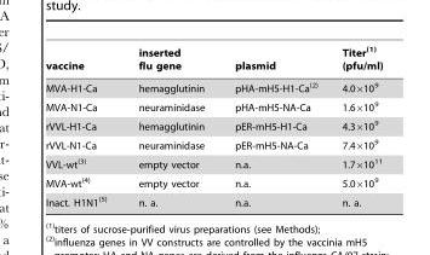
<table><thead><tr><td>vaccine</td><td>inserted flu gene</td><td>plasmid</td><td>Titer(1) (pfu/ml)</td></tr></thead><tbody><tr><td>MVA-H1-Ca</td><td>hemagglutinin</td><td>pHA-mH5-H1-Ca(2)</td><td>4.0×10<sup>9</sup></td></tr><tr><td>MVA-N1-Ca</td><td>neuraminidase</td><td>pHA-mH5-NA-Ca</td><td>1.6×10<sup>9</sup></td></tr><tr><td>rVVL-H1-Ca</td><td>hemagglutinin</td><td>pER-mH5-H1-Ca</td><td>4.3×10<sup>9</sup></td></tr><tr><td>rVVL-N1-Ca</td><td>neuraminidase</td><td>pER-mH5-NA-Ca</td><td>7.4×10<sup>9</sup></td></tr><tr><td>VVL-wt(3)</td><td>empty vector</td><td>n.a.</td><td>1.7×10<sup>11</sup></td></tr><tr><td>MVA-wt(4)</td><td>empty vector</td><td>n.a.</td><td>5.0×10<sup>9</sup></td></tr><tr><td>Inact. H1N1(5)</td><td>n. a.</td><td>n.a.</td><td>n. a.</td></tr></tbody></table>